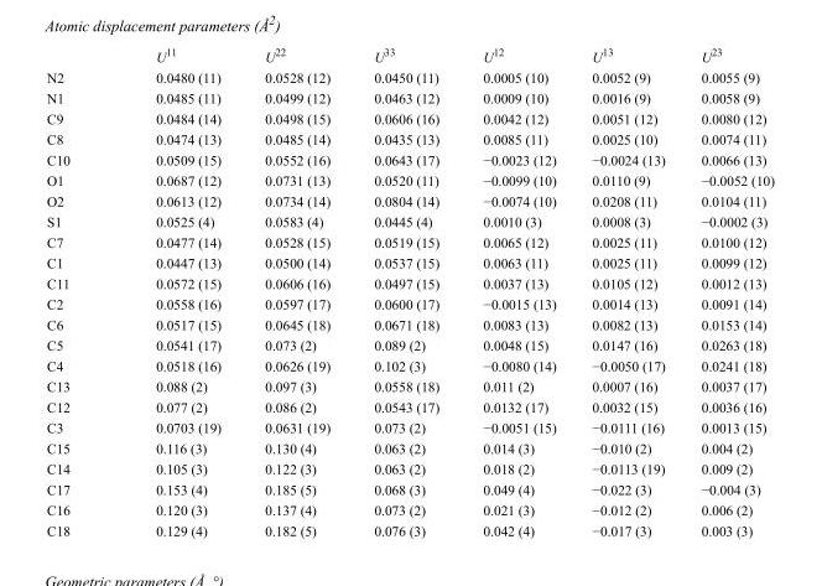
<table><thead><tr><td></td><td>U<sup>11</sup></td><td>U<sup>22</sup></td><td>U<sup>33</sup></td><td>U<sup>12</sup></td><td>U<sup>13</sup></td><td>U<sup>23</sup></td></tr></thead><tbody><tr><td>N2</td><td>0.0480 (11)</td><td>0.0528 (12)</td><td>0.0450 (11)</td><td>0.0005 (10)</td><td>0.0052 (9)</td><td>0.0055 (9)</td></tr><tr><td>N1</td><td>0.0485 (11)</td><td>0.0499 (12)</td><td>0.0463 (12)</td><td>0.0009 (10)</td><td>0.0016 (9)</td><td>0.0058 (9)</td></tr><tr><td>C9</td><td>0.0484 (14)</td><td>0.0498 (15)</td><td>0.0606 (16)</td><td>0.0042 (12)</td><td>0.0051 (12)</td><td>0.0080 (12)</td></tr><tr><td>C8</td><td>0.0474 (13)</td><td>0.0485 (14)</td><td>0.0435 (13)</td><td>0.0085 (11)</td><td>0.0025 (10)</td><td>0.0074 (11)</td></tr><tr><td>C10</td><td>0.0509 (15)</td><td>0.0552 (16)</td><td>0.0643 (17)</td><td>−0.0023 (12)</td><td>−0.0024 (13)</td><td>0.0066 (13)</td></tr><tr><td>O1</td><td>0.0687 (12)</td><td>0.0731 (13)</td><td>0.0520 (11)</td><td>−0.0099 (10)</td><td>0.0110 (9)</td><td>−0.0052 (10)</td></tr><tr><td>O2</td><td>0.0613 (12)</td><td>0.0734 (14)</td><td>0.0804 (14)</td><td>−0.0074 (10)</td><td>0.0208 (11)</td><td>0.0104 (11)</td></tr><tr><td>S1</td><td>0.0525 (4)</td><td>0.0583 (4)</td><td>0.0445 (4)</td><td>0.0010 (3)</td><td>0.0008 (3)</td><td>−0.0002 (3)</td></tr><tr><td>C7</td><td>0.0477 (14)</td><td>0.0528 (15)</td><td>0.0519 (15)</td><td>0.0065 (12)</td><td>0.0025 (11)</td><td>0.0100 (12)</td></tr><tr><td>C1</td><td>0.0447 (13)</td><td>0.0500 (14)</td><td>0.0537 (15)</td><td>0.0063 (11)</td><td>0.0025 (11)</td><td>0.0099 (12)</td></tr><tr><td>C11</td><td>0.0572 (15)</td><td>0.0606 (16)</td><td>0.0497 (15)</td><td>0.0037 (13)</td><td>0.0105 (12)</td><td>0.0012 (13)</td></tr><tr><td>C2</td><td>0.0558 (16)</td><td>0.0597 (17)</td><td>0.0600 (17)</td><td>−0.0015 (13)</td><td>0.0014 (13)</td><td>0.0091 (14)</td></tr><tr><td>C6</td><td>0.0517 (15)</td><td>0.0645 (18)</td><td>0.0671 (18)</td><td>0.0083 (13)</td><td>0.0082 (13)</td><td>0.0153 (14)</td></tr><tr><td>C5</td><td>0.0541 (17)</td><td>0.073 (2)</td><td>0.089 (2)</td><td>0.0048 (15)</td><td>0.0147 (16)</td><td>0.0263 (18)</td></tr><tr><td>C4</td><td>0.0518 (16)</td><td>0.0626 (19)</td><td>0.102 (3)</td><td>−0.0080 (14)</td><td>−0.0050 (17)</td><td>0.0241 (18)</td></tr><tr><td>C13</td><td>0.088 (2)</td><td>0.097 (3)</td><td>0.0558 (18)</td><td>0.011 (2)</td><td>0.0007 (16)</td><td>0.0037 (17)</td></tr><tr><td>C12</td><td>0.077 (2)</td><td>0.086 (2)</td><td>0.0543 (17)</td><td>0.0132 (17)</td><td>0.0032 (15)</td><td>0.0036 (16)</td></tr><tr><td>C3</td><td>0.0703 (19)</td><td>0.0631 (19)</td><td>0.073 (2)</td><td>−0.0051 (15)</td><td>−0.0111 (16)</td><td>0.0013 (15)</td></tr><tr><td>C15</td><td>0.116 (3)</td><td>0.130 (4)</td><td>0.063 (2)</td><td>0.014 (3)</td><td>−0.010 (2)</td><td>0.004 (2)</td></tr><tr><td>C14</td><td>0.105 (3)</td><td>0.122 (3)</td><td>0.063 (2)</td><td>0.018 (2)</td><td>−0.0113 (19)</td><td>0.009 (2)</td></tr><tr><td>C17</td><td>0.153 (4)</td><td>0.185 (5)</td><td>0.068 (3)</td><td>0.049 (4)</td><td>−0.022 (3)</td><td>−0.004 (3)</td></tr><tr><td>C16</td><td>0.120 (3)</td><td>0.137 (4)</td><td>0.073 (2)</td><td>0.021 (3)</td><td>−0.012 (2)</td><td>0.006 (2)</td></tr><tr><td>C18</td><td>0.129 (4)</td><td>0.182 (5)</td><td>0.076 (3)</td><td>0.042 (4)</td><td>−0.017 (3)</td><td>0.003 (3)</td></tr></tbody></table>